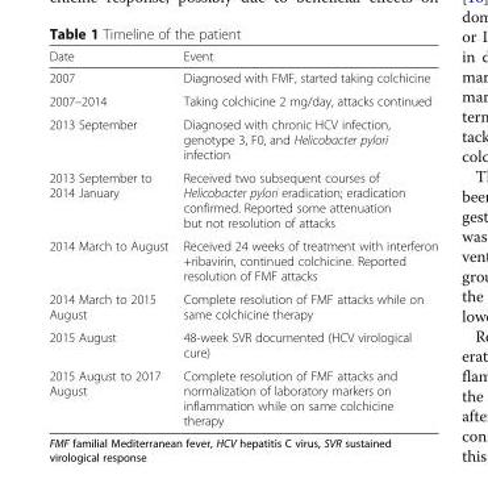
<table><thead><tr><td>Date</td><td>Event</td></tr></thead><tbody><tr><td>2007</td><td>Diagnosed with FMF, started taking colchicine</td></tr><tr><td>2007–2014</td><td>Taking colchicine 2 mg/day, attacks continued</td></tr><tr><td>2013 September</td><td>Diagnosed with chronic HCV infection, genotype 3, F0, and Helicobacter pylori infection</td></tr><tr><td>2013 September to 2014 January</td><td>Received two subsequent courses of Helicobacter pylori eradication; eradication confirmed. Reported some attenuation but not resolution of attacks</td></tr><tr><td>2014 March to August</td><td>Received 24 weeks of treatment with interferon +ribavirin, continued colchicine. Reported resolution of FMF attacks</td></tr><tr><td>2014 March to 2015 August</td><td>Complete resolution of FMF attacks while on same colchicine therapy</td></tr><tr><td>2015 August</td><td>48-week SVR documented (HCV virological cure)</td></tr><tr><td>2015 August to 2017 August</td><td>Complete resolution of FMF attacks and normalization of laboratory markers on inflammation while on same colchicine therapy</td></tr></tbody></table>